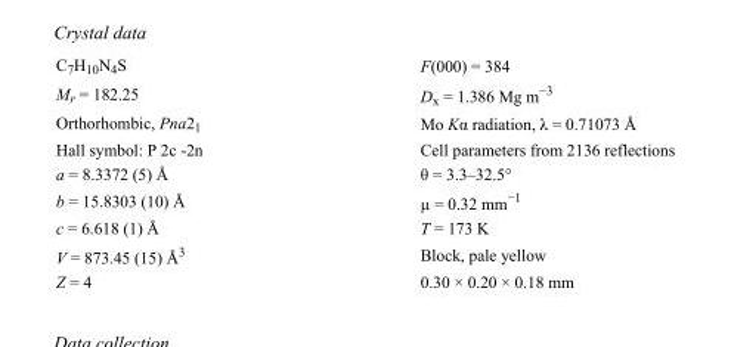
<table><tbody><tr><td>C<sub>7</sub>H<sub>10</sub>N<sub>4</sub>S</td><td>F(000) = 384</td></tr><tr><td>M<sub>r</sub> = 182.25</td><td>D<sub>x</sub> = 1.386 Mg m<sup>−3</sup></td></tr><tr><td>Orthorhombic, Pna2<sub>1</sub></td><td>Mo Kα radiation, λ = 0.71073 Å</td></tr><tr><td>Hall symbol: P 2c -2n</td><td>Cell parameters from 2136 reflections</td></tr><tr><td>a = 8.3372 (5) Å</td><td>θ = 3.3–32.5°</td></tr><tr><td>b = 15.8303 (10) Å</td><td>µ = 0.32 mm<sup>−1</sup></td></tr><tr><td>c = 6.618 (1) Å</td><td>T = 173 K</td></tr><tr><td>V = 873.45 (15) Å<sup>3</sup></td><td>Block, pale yellow</td></tr><tr><td>Z = 4</td><td>0.30 × 0.20 × 0.18 mm</td></tr></tbody></table>